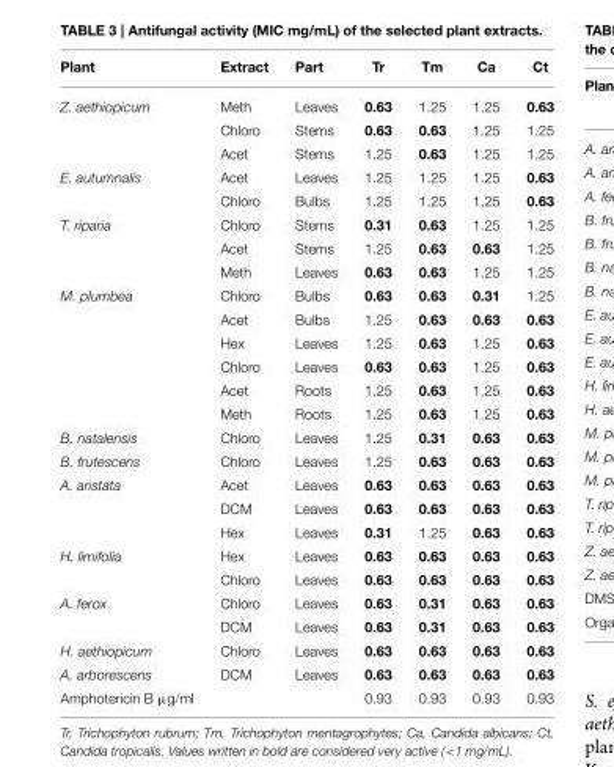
<table><thead><tr><td>Plant</td><td>Extract</td><td>Part</td><td>Tr</td><td>Tm</td><td>Ca</td><td>Ct</td></tr></thead><tbody><tr><td rowspan="3">Z. aethiopicum</td><td>Meth</td><td>Leaves</td><td>0.63</td><td>1.25</td><td>1.25</td><td>0.63</td></tr><tr><td>Chloro</td><td>Stems</td><td>0.63</td><td>0.63</td><td>1.25</td><td>1.25</td></tr><tr><td>Acet</td><td>Stems</td><td>1.25</td><td>0.63</td><td>1.25</td><td>1.25</td></tr><tr><td rowspan="2">E. autumnalis</td><td>Acet</td><td>Leaves</td><td>1.25</td><td>1.25</td><td>1.25</td><td>0.63</td></tr><tr><td>Chloro</td><td>Bulbs</td><td>1.25</td><td>1.25</td><td>1.25</td><td>0.63</td></tr><tr><td rowspan="3">T. riparia</td><td>Chloro</td><td>Stems</td><td>0.31</td><td>0.63</td><td>1.25</td><td>1.25</td></tr><tr><td>Acet</td><td>Stems</td><td>1.25</td><td>0.63</td><td>0.63</td><td>1.25</td></tr><tr><td>Meth</td><td>Leaves</td><td>0.63</td><td>0.63</td><td>1.25</td><td>1.25</td></tr><tr><td rowspan="6">M. plumbea</td><td>Chloro</td><td>Bulbs</td><td>0.63</td><td>0.63</td><td>0.31</td><td>1.25</td></tr><tr><td>Acet</td><td>Bulbs</td><td>1.25</td><td>0.63</td><td>0.63</td><td>0.63</td></tr><tr><td>Hex</td><td>Leaves</td><td>1.25</td><td>0.63</td><td>1.25</td><td>0.63</td></tr><tr><td>Chloro</td><td>Leaves</td><td>0.63</td><td>0.63</td><td>1.25</td><td>0.63</td></tr><tr><td>Acet</td><td>Roots</td><td>1.25</td><td>0.63</td><td>1.25</td><td>0.63</td></tr><tr><td>Meth</td><td>Roots</td><td>1.25</td><td>0.63</td><td>1.25</td><td>0.63</td></tr><tr><td>B. natalensis</td><td>Chloro</td><td>Leaves</td><td>1.25</td><td>0.31</td><td>0.63</td><td>0.63</td></tr><tr><td>B. frutescens</td><td>Chloro</td><td>Leaves</td><td>1.25</td><td>0.63</td><td>0.63</td><td>0.63</td></tr><tr><td rowspan="3">A. aristata</td><td>Acet</td><td>Leaves</td><td>0.63</td><td>0.63</td><td>0.63</td><td>0.63</td></tr><tr><td>DCM</td><td>Leaves</td><td>0.63</td><td>0.63</td><td>0.63</td><td>0.63</td></tr><tr><td>Hex</td><td>Leaves</td><td>0.31</td><td>1.25</td><td>0.63</td><td>0.63</td></tr><tr><td rowspan="2">H. limifolia</td><td>Hex</td><td>Leaves</td><td>0.63</td><td>0.63</td><td>0.63</td><td>0.63</td></tr><tr><td>Chloro</td><td>Leaves</td><td>0.63</td><td>0.63</td><td>0.63</td><td>0.63</td></tr><tr><td rowspan="2">A. ferox</td><td>Chloro</td><td>Leaves</td><td>0.63</td><td>0.31</td><td>0.63</td><td>0.63</td></tr><tr><td>DCM</td><td>Leaves</td><td>0.63</td><td>0.31</td><td>0.63</td><td>0.63</td></tr><tr><td>H. aethiopicum</td><td>Chloro</td><td>Leaves</td><td>0.63</td><td>0.63</td><td>0.63</td><td>0.63</td></tr><tr><td>A. arborescens</td><td>DCM</td><td>Leaves</td><td>0.63</td><td>0.63</td><td>0.63</td><td>0.63</td></tr><tr><td>Amphotericin B µg/ml</td><td></td><td></td><td>0.93</td><td>0.93</td><td>0.93</td><td>0.93</td></tr></tbody></table>